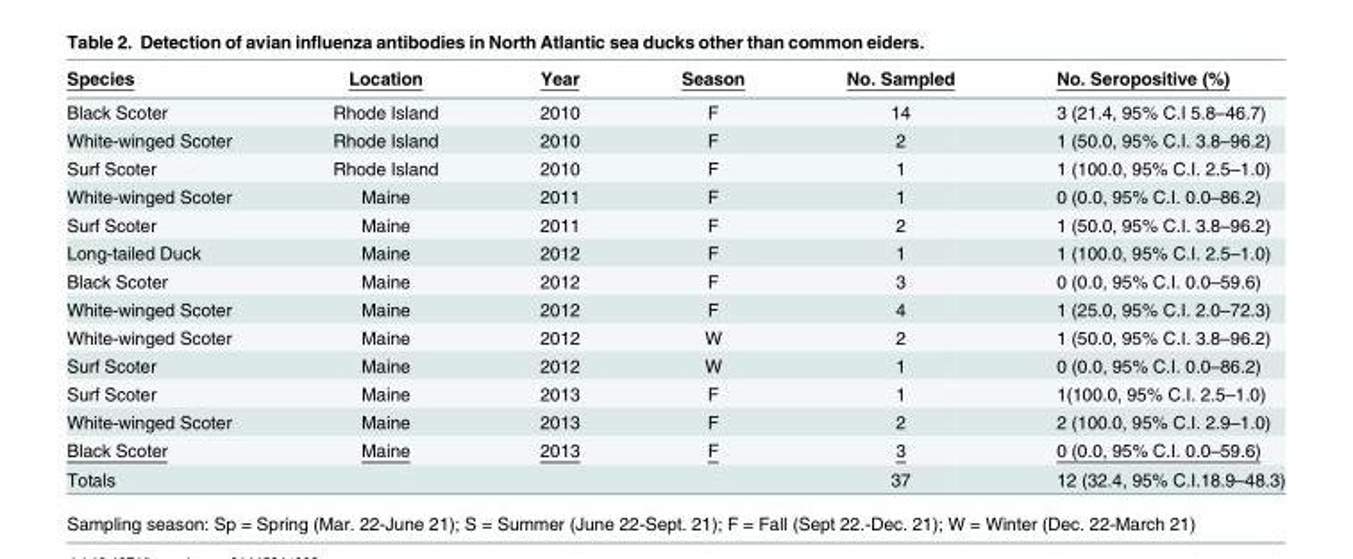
<table><thead><tr><td>Species</td><td>Location</td><td>Year</td><td>Season</td><td>No. Sampled</td><td>No. Seropositive (%)</td></tr></thead><tbody><tr><td>Black Scoter</td><td>Rhode Island</td><td>2010</td><td>F</td><td>14</td><td>3 (21.4, 95% C.I 5.8–46.7)</td></tr><tr><td>White-winged Scoter</td><td>Rhode Island</td><td>2010</td><td>F</td><td>2</td><td>1 (50.0, 95% C.I. 3.8–96.2)</td></tr><tr><td>Surf Scoter</td><td>Rhode Island</td><td>2010</td><td>F</td><td>1</td><td>1 (100.0, 95% C.I. 2.5–1.0)</td></tr><tr><td>White-winged Scoter</td><td>Maine</td><td>2011</td><td>F</td><td>1</td><td>0 (0.0, 95% C.I. 0.0–86.2)</td></tr><tr><td>Surf Scoter</td><td>Maine</td><td>2011</td><td>F</td><td>2</td><td>1 (50.0, 95% C.I. 3.8–96.2)</td></tr><tr><td>Long-tailed Duck</td><td>Maine</td><td>2012</td><td>F</td><td>1</td><td>1 (100.0, 95% C.I. 2.5–1.0)</td></tr><tr><td>Black Scoter</td><td>Maine</td><td>2012</td><td>F</td><td>3</td><td>0 (0.0, 95% C.I. 0.0–59.6)</td></tr><tr><td>White-winged Scoter</td><td>Maine</td><td>2012</td><td>F</td><td>4</td><td>1 (25.0, 95% C.I. 2.0–72.3)</td></tr><tr><td>White-winged Scoter</td><td>Maine</td><td>2012</td><td>W</td><td>2</td><td>1 (50.0, 95% C.I. 3.8–96.2)</td></tr><tr><td>Surf Scoter</td><td>Maine</td><td>2012</td><td>W</td><td>1</td><td>0 (0.0, 95% C.I. 0.0–86.2)</td></tr><tr><td>Surf Scoter</td><td>Maine</td><td>2013</td><td>F</td><td>1</td><td>1(100.0, 95% C.I. 2.5–1.0)</td></tr><tr><td>White-winged Scoter</td><td>Maine</td><td>2013</td><td>F</td><td>2</td><td>2 (100.0, 95% C.I. 2.9–1.0)</td></tr><tr><td>Black Scoter</td><td>Maine</td><td>2013</td><td>F</td><td>3</td><td>0 (0.0, 95% C.I. 0.0–59.6)</td></tr><tr><td>Totals</td><td></td><td></td><td></td><td>37</td><td>12 (32.4, 95% C.I.18.9–48.3)</td></tr></tbody></table>